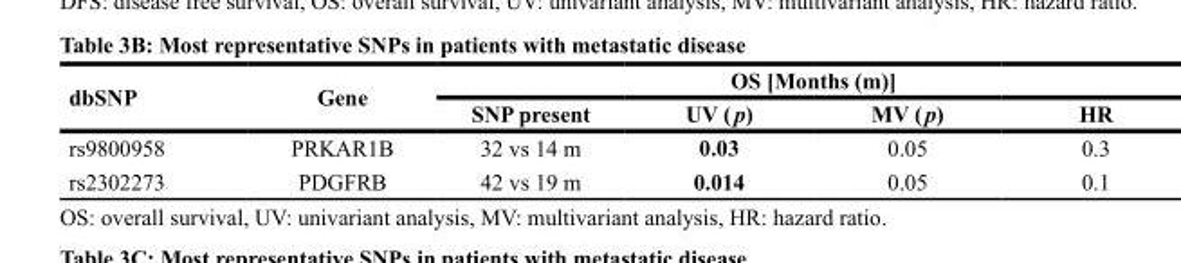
<table><thead><tr><td rowspan="2">dbSNP</td><td rowspan="2">Gene</td><td colspan="4">OS [Months (m)]</td></tr><tr><td>SNP present</td><td>UV ( p)</td><td>MV ( p)</td><td>HR</td></tr></thead><tbody><tr><td>rs9800958</td><td>PRKAR1B</td><td>32 vs 14 m</td><td>0.03</td><td>0.05</td><td>0.3</td></tr><tr><td>rs2302273</td><td>PDGFRB</td><td>42 vs 19 m</td><td>0.014</td><td>0.05</td><td>0.1</td></tr></tbody></table>